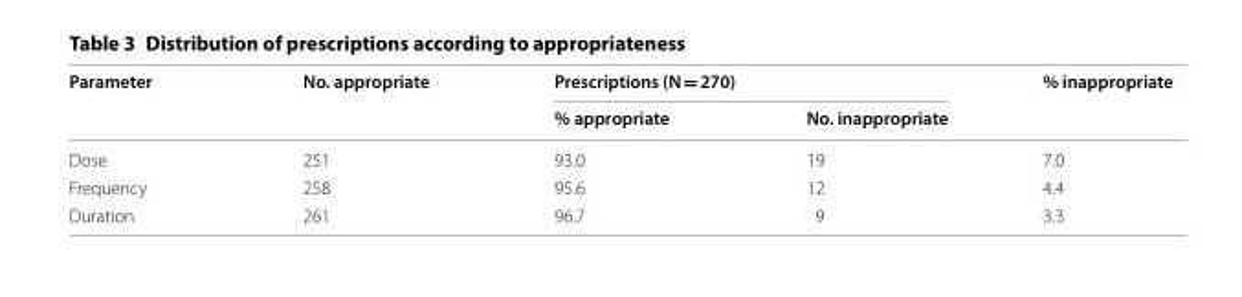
<table><thead><tr><td rowspan="2">Parameter</td><td rowspan="2">No. appropriate</td><td colspan="2">Prescriptions (N = 270)</td><td rowspan="2">% inappropriate</td></tr><tr><td>% appropriate</td><td>No. inappropriate</td></tr></thead><tbody><tr><td>Dose</td><td>251</td><td>93.0</td><td>19</td><td>7.0</td></tr><tr><td>Frequency</td><td>258</td><td>95.6</td><td>12</td><td>4.4</td></tr><tr><td>Duration</td><td>261</td><td>96.7</td><td>9</td><td>3.3</td></tr></tbody></table>